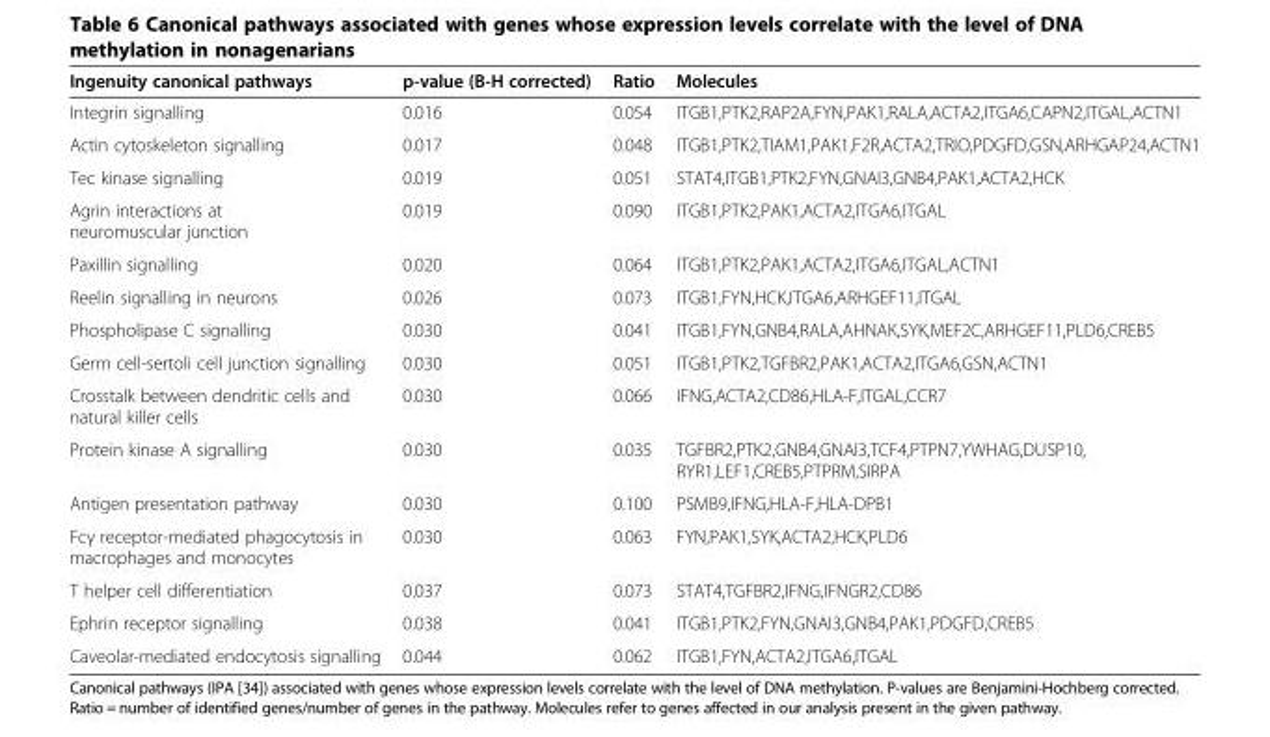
<table><thead><tr><td>Ingenuity canonical pathways</td><td>p-value (B-H corrected)</td><td>Ratio</td><td>Molecules</td></tr></thead><tbody><tr><td>Integrin signalling</td><td>0.016</td><td>0.054</td><td>ITGB1,PTK2,RAP2A,FYN,PAK1,RALA,ACTA2,ITGA6,CAPN2,ITGAL,ACTN1</td></tr><tr><td>Actin cytoskeleton signalling</td><td>0.017</td><td>0.048</td><td>ITGB1,PTK2,TIAM1,PAK1,F2R,ACTA2,TRIO,PDGFD,GSN,ARHGAP24,ACTN1</td></tr><tr><td>Tec kinase signalling</td><td>0.019</td><td>0.051</td><td>STAT4,ITGB1,PTK2,FYN,GNAI3,GNB4,PAK1,ACTA2,HCK</td></tr><tr><td>Agrin interactions at neuromuscular junction</td><td>0.019</td><td>0.090</td><td>ITGB1,PTK2,PAK1,ACTA2,ITGA6,ITGAL</td></tr><tr><td>Paxillin signalling</td><td>0.020</td><td>0.064</td><td>ITGB1,PTK2,PAK1,ACTA2,ITGA6,ITGAL,ACTN1</td></tr><tr><td>Reelin signalling in neurons</td><td>0.026</td><td>0.073</td><td>ITGB1,FYN,HCK,ITGA6,ARHGEF11,ITGAL</td></tr><tr><td>Phospholipase C signalling</td><td>0.030</td><td>0.041</td><td>ITGB1,FYN,GNB4,RALA,AHNAK,SYK,MEF2C,ARHGEF11,PLD6,CREB5</td></tr><tr><td>Germ cell-sertoli cell junction signalling</td><td>0.030</td><td>0.051</td><td>ITGB1,PTK2,TGFBR2,PAK1,ACTA2,ITGA6,GSN,ACTN1</td></tr><tr><td>Crosstalk between dendritic cells and natural killer cells</td><td>0.030</td><td>0.066</td><td>IFNG,ACTA2,CD86,HLA-F,ITGAL,CCR7</td></tr><tr><td>Protein kinase A signalling</td><td>0.030</td><td>0.035</td><td>TGFBR2,PTK2,GNB4,GNAI3,TCF4,PTPN7,YWHAG,DUSP10, RYR1,LEF1,CREB5,PTPRM,SIRPA</td></tr><tr><td>Antigen presentation pathway</td><td>0.030</td><td>0.100</td><td>PSMB9,IFNG,HLA-F,HLA-DPB1</td></tr><tr><td>Fcγ receptor-mediated phagocytosis in macrophages and monocytes</td><td>0.030</td><td>0.063</td><td>FYN,PAK1,SYK,ACTA2,HCK,PLD6</td></tr><tr><td>T helper cell differentiation</td><td>0.037</td><td>0.073</td><td>STAT4,TGFBR2,IFNG,IFNGR2,CD86</td></tr><tr><td>Ephrin receptor signalling</td><td>0.038</td><td>0.041</td><td>ITGB1,PTK2,FYN,GNAI3,GNB4,PAK1,PDGFD,CREB5</td></tr><tr><td>Caveolar-mediated endocytosis signalling</td><td>0.044</td><td>0.062</td><td>ITGB1,FYN,ACTA2,ITGA6,ITGAL</td></tr></tbody></table>